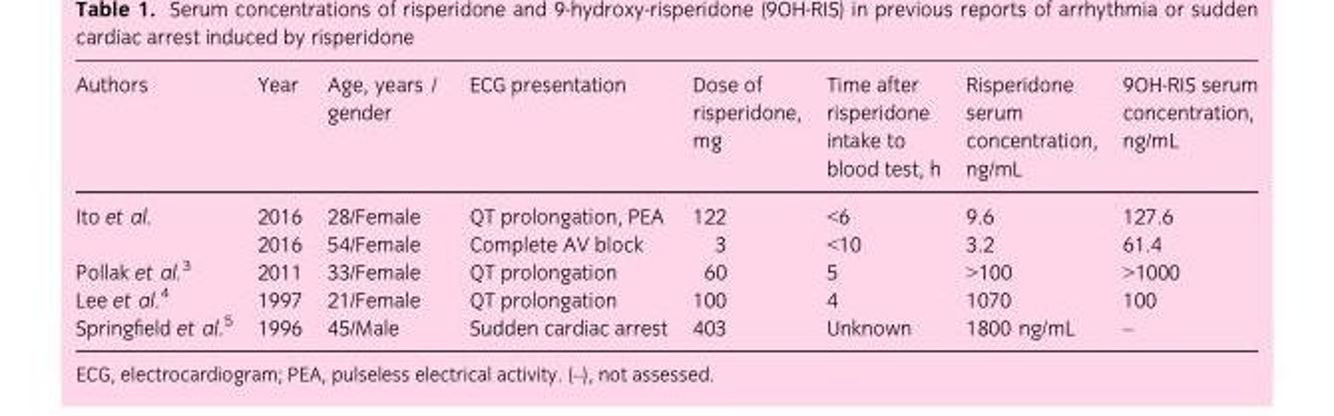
<table><thead><tr><td>Authors</td><td>Year</td><td>Age, years / gender</td><td>ECG presentation</td><td>Dose of risperidone, mg</td><td>Time after risperidone intake to blood test, h</td><td>Risperidone serum concentration, ng/mL</td><td>9OH-RIS serum concentration, ng/mL</td></tr></thead><tbody><tr><td rowspan="2">Ito et al.</td><td>2016</td><td>28/Female</td><td>QT prolongation, PEA</td><td>122</td><td>&lt;6</td><td>9.6</td><td>127.6</td></tr><tr><td>2016</td><td>54/Female</td><td>Complete AV block</td><td>3</td><td>&lt;10</td><td>3.2</td><td>61.4</td></tr><tr><td>Pollak et al.<sup>3</sup></td><td>2011</td><td>33/Female</td><td>QT prolongation</td><td>60</td><td>5</td><td>&gt;100</td><td>&gt;1000</td></tr><tr><td>Lee et al.<sup>4</sup></td><td>1997</td><td>21/Female</td><td>QT prolongation</td><td>100</td><td>4</td><td>1070</td><td>100</td></tr><tr><td>Springfield et al.<sup>5</sup></td><td>1996</td><td>45/Male</td><td>Sudden cardiac arrest</td><td>403</td><td>Unknown</td><td>1800 ng/mL</td><td>–</td></tr></tbody></table>